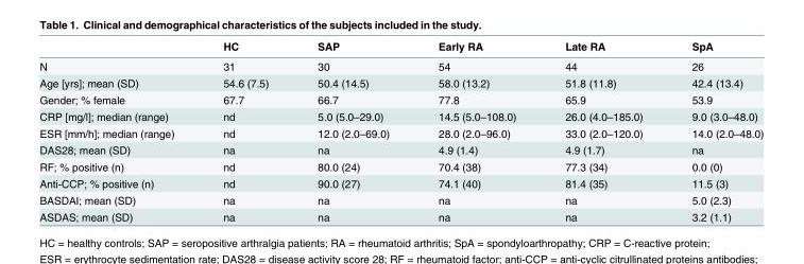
<table><thead><tr><td></td><td>HC</td><td>SAP</td><td>Early RA</td><td>Late RA</td><td>SpA</td></tr></thead><tbody><tr><td>N</td><td>31</td><td>30</td><td>54</td><td>44</td><td>26</td></tr><tr><td>Age [yrs]; mean (SD)</td><td>54.6 (7.5)</td><td>50.4 (14.5)</td><td>58.0 (13.2)</td><td>51.8 (11.8)</td><td>42.4 (13.4)</td></tr><tr><td>Gender; % female</td><td>67.7</td><td>66.7</td><td>77.8</td><td>65.9</td><td>53.9</td></tr><tr><td>CRP [mg/l]; median (range)</td><td>nd</td><td>5.0 (5.0–29.0)</td><td>14.5 (5.0–108.0)</td><td>26.0 (4.0–185.0)</td><td>9.0 (3.0–48.0)</td></tr><tr><td>ESR [mm/h]; median (range)</td><td>nd</td><td>12.0 (2.0–69.0)</td><td>28.0 (2.0–96.0)</td><td>33.0 (2.0–120.0)</td><td>14.0 (2.0–48.0)</td></tr><tr><td>DAS28; mean (SD)</td><td>na</td><td>na</td><td>4.9 (1.4)</td><td>4.9 (1.7)</td><td>na</td></tr><tr><td>RF; % positive (n)</td><td>nd</td><td>80.0 (24)</td><td>70.4 (38)</td><td>77.3 (34)</td><td>0.0 (0)</td></tr><tr><td>Anti-CCP; % positive (n)</td><td>nd</td><td>90.0 (27)</td><td>74.1 (40)</td><td>81.4 (35)</td><td>11.5 (3)</td></tr><tr><td>BASDAI; mean (SD)</td><td>na</td><td>na</td><td>na</td><td>na</td><td>5.0 (2.3)</td></tr><tr><td>ASDAS; mean (SD)</td><td>na</td><td>na</td><td>na</td><td>na</td><td>3.2 (1.1)</td></tr></tbody></table>